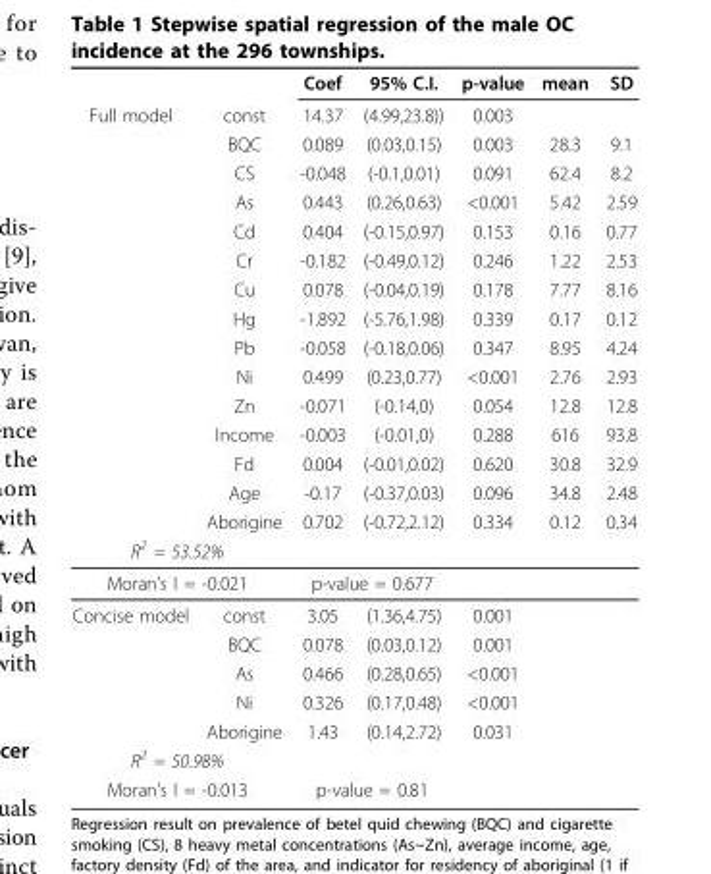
<table><thead><tr><td rowspan="16">Full model</td><td rowspan="16">const BQC CS As Cd Cr Cu Hg Pb Ni Zn Income Fd Age Aborigine</td><td rowspan="17">Coef 14.37 0.089 -0.048 0.443 0.404 -0.182 0.078 -1.892 -0.058 0.499 -0.071 -0.003 0.004 -0.17 0.702</td><td rowspan="17">95% C.I. (4.99,23.8)) (0.03,0.15) (-0.1,0.01) (0.26,0.63) (-0.15,0.97) (-0.49,0.12) (-0.04,0.19) (-5.76,1.98) (-0.18,0.06) (0.23,0.77) (-0.14,0) (-0.01,0) (-0.01,0.02) (-0.37,0.03) (-0.72,2.12)</td><td rowspan="17">p-value 0.003 0.003 0.091 &lt;0.001 0.153 0.246 0.178 0.339 0.347 &lt;0.001 0.054 0.288 0.620 0.096 0.334</td><td rowspan="17">mean 28.3 62.4 5.42 0.16 1.22 7.77 0.17 8.95 2.76 12.8 616 30.8 34.8 0.12</td><td rowspan="17">SD 9.1 8.2 2.59 0.77 2.53 8.16 0.12 4.24 2.93 12.8 93.8 32.9 2.48 0.34</td></tr><tr></tr><tr></tr><tr></tr><tr></tr><tr></tr><tr></tr><tr></tr><tr></tr><tr></tr><tr></tr><tr></tr><tr></tr><tr></tr><tr></tr><tr></tr><tr><td colspan="2">R2 = 53.52%</td></tr></thead><tbody><tr><td colspan="2">Moran’s I = -0.021</td><td colspan="2">p-value = 0.677</td><td></td><td></td><td></td></tr><tr><td rowspan="5">Concise model</td><td>const</td><td>3.05</td><td>(1.36,4.75)</td><td>0.001</td><td></td><td></td></tr><tr><td>BQC</td><td>0.078</td><td>(0.03,0.12)</td><td>0.001</td><td></td><td></td></tr><tr><td>As</td><td>0.466</td><td>(0.28,0.65)</td><td>&lt;0.001</td><td></td><td></td></tr><tr><td>Ni</td><td>0.326</td><td>(0.17,0.48)</td><td>&lt;0.001</td><td></td><td></td></tr><tr><td>Aborigine</td><td>1.43</td><td>(0.14,2.72)</td><td>0.031</td><td></td><td></td></tr><tr><td colspan="7">R<sup>2</sup> = 50.98%</td></tr><tr><td colspan="2">Moran’s I = -0.013</td><td colspan="2">p-value = 0.81</td><td></td><td></td><td></td></tr></tbody></table>